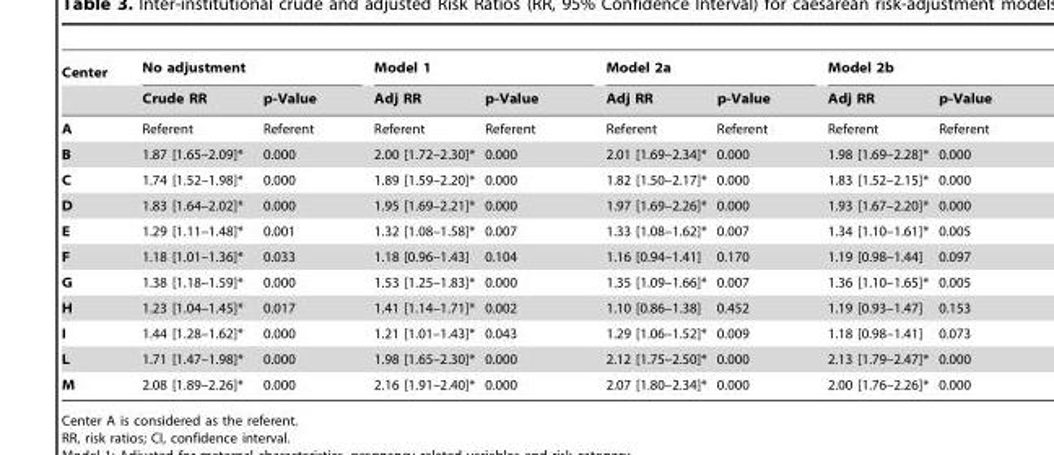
<table><thead><tr><td rowspan="2">Center</td><td colspan="2">No adjustment</td><td colspan="2">Model 1</td><td colspan="2">Model 2a</td><td colspan="2">Model 2b</td></tr><tr><td>Crude RR</td><td>p-Value</td><td>Adj RR</td><td>p-Value</td><td>Adj RR</td><td>p-Value</td><td>Adj RR</td><td>p-Value</td></tr></thead><tbody><tr><td>A</td><td>Referent</td><td>Referent</td><td>Referent</td><td>Referent</td><td>Referent</td><td>Referent</td><td>Referent</td><td>Referent</td></tr><tr><td>B</td><td>1.87 [1.65–2.09]*</td><td>0.000</td><td>2.00 [1.72–2.30]*</td><td>0.000</td><td>2.01 [1.69–2.34]*</td><td>0.000</td><td>1.98 [1.69–2.28]*</td><td>0.000</td></tr><tr><td>C</td><td>1.74 [1.52–1.98]*</td><td>0.000</td><td>1.89 [1.59–2.20]*</td><td>0.000</td><td>1.82 [1.50–2.17]*</td><td>0.000</td><td>1.83 [1.52–2.15]*</td><td>0.000</td></tr><tr><td>D</td><td>1.83 [1.64–2.02]*</td><td>0.000</td><td>1.95 [1.69–2.21]*</td><td>0.000</td><td>1.97 [1.69–2.26]*</td><td>0.000</td><td>1.93 [1.67–2.20]*</td><td>0.000</td></tr><tr><td>E</td><td>1.29 [1.11–1.48]*</td><td>0.001</td><td>1.32 [1.08–1.58]*</td><td>0.007</td><td>1.33 [1.08–1.62]*</td><td>0.007</td><td>1.34 [1.10–1.61]*</td><td>0.005</td></tr><tr><td>F</td><td>1.18 [1.01–1.36]*</td><td>0.033</td><td>1.18 [0.96–1.43]</td><td>0.104</td><td>1.16 [0.94–1.41]</td><td>0.170</td><td>1.19 [0.98–1.44]</td><td>0.097</td></tr><tr><td>G</td><td>1.38 [1.18–1.59]*</td><td>0.000</td><td>1.53 [1.25–1.83]*</td><td>0.000</td><td>1.35 [1.09–1.66]*</td><td>0.007</td><td>1.36 [1.10–1.65]*</td><td>0.005</td></tr><tr><td>H</td><td>1.23 [1.04–1.45]*</td><td>0.017</td><td>1.41 [1.14–1.71]*</td><td>0.002</td><td>1.10 [0.86–1.38]</td><td>0.452</td><td>1.19 [0.93–1.47]</td><td>0.153</td></tr><tr><td>I</td><td>1.44 [1.28–1.62]*</td><td>0.000</td><td>1.21 [1.01–1.43]*</td><td>0.043</td><td>1.29 [1.06–1.52]*</td><td>0.009</td><td>1.18 [0.98–1.41]</td><td>0.073</td></tr><tr><td>L</td><td>1.71 [1.47–1.98]*</td><td>0.000</td><td>1.98 [1.65–2.30]*</td><td>0.000</td><td>2.12 [1.75–2.50]*</td><td>0.000</td><td>2.13 [1.79–2.47]*</td><td>0.000</td></tr><tr><td>M</td><td>2.08 [1.89–2.26]*</td><td>0.000</td><td>2.16 [1.91–2.40]*</td><td>0.000</td><td>2.07 [1.80–2.34]*</td><td>0.000</td><td>2.00 [1.76–2.26]*</td><td>0.000</td></tr></tbody></table>